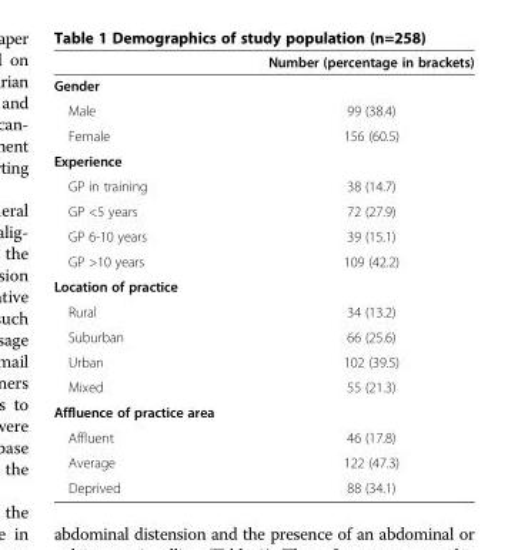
<table><thead><tr><td></td><td>Number (percentage in brackets)</td></tr></thead><tbody><tr><td colspan="2">Gender</td></tr><tr><td>Male</td><td>99 (38.4)</td></tr><tr><td>Female</td><td>156 (60.5)</td></tr><tr><td colspan="2">Experience</td></tr><tr><td>GP in training</td><td>38 (14.7)</td></tr><tr><td>GP &lt;5 years</td><td>72 (27.9)</td></tr><tr><td>GP 6-10 years</td><td>39 (15.1)</td></tr><tr><td>GP &gt;10 years</td><td>109 (42.2)</td></tr><tr><td colspan="2">Location of practice</td></tr><tr><td>Rural</td><td>34 (13.2)</td></tr><tr><td>Suburban</td><td>66 (25.6)</td></tr><tr><td>Urban</td><td>102 (39.5)</td></tr><tr><td>Mixed</td><td>55 (21.3)</td></tr><tr><td colspan="2">Affluence of practice area</td></tr><tr><td>Affluent</td><td>46 (17.8)</td></tr><tr><td>Average</td><td>122 (47.3)</td></tr><tr><td>Deprived</td><td>88 (34.1)</td></tr></tbody></table>